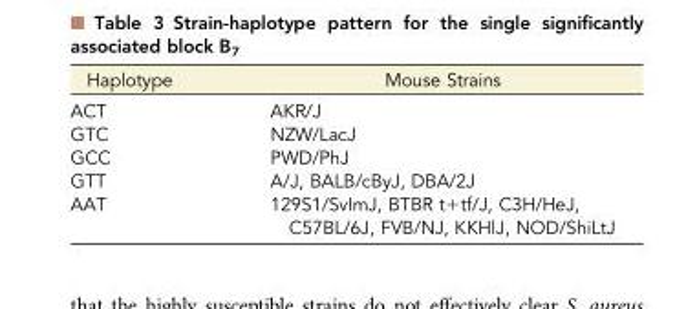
<table><thead><tr><td>Haplotype</td><td>Mouse Strains</td></tr></thead><tbody><tr><td>ACT</td><td>AKR/J</td></tr><tr><td>GTC</td><td>NZW/LacJ</td></tr><tr><td>GCC</td><td>PWD/PhJ</td></tr><tr><td>GTT</td><td>A/J, BALB/cByJ, DBA/2J</td></tr><tr><td>AAT</td><td>129S1/SvImJ, BTBR t+tf/J, C3H/HeJ, C57BL/6J, FVB/NJ, KKHlJ, NOD/ShiLtJ</td></tr></tbody></table>